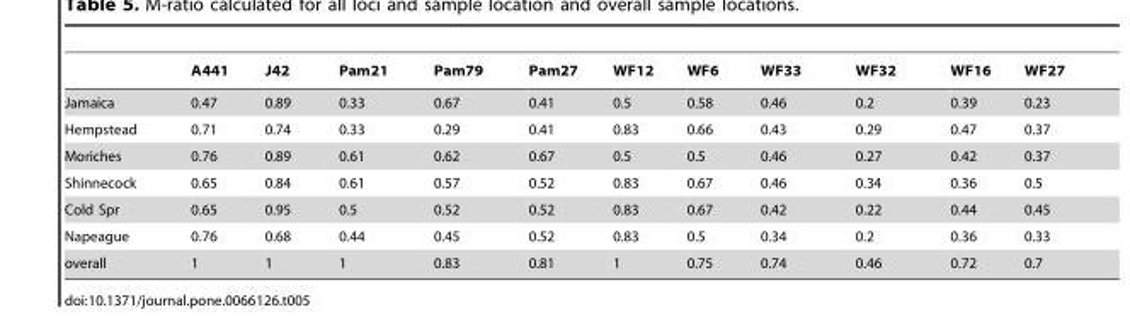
<table><thead><tr><td></td><td>A441</td><td>J42</td><td>Pam21</td><td>Pam79</td><td>Pam27</td><td>WF12</td><td>WF6</td><td>WF33</td><td>WF32</td><td>WF16</td><td>WF27</td></tr></thead><tbody><tr><td>Jamaica</td><td>0.47</td><td>0.89</td><td>0.33</td><td>0.67</td><td>0.41</td><td>0.5</td><td>0.58</td><td>0.46</td><td>0.2</td><td>0.39</td><td>0.23</td></tr><tr><td>Hempstead</td><td>0.71</td><td>0.74</td><td>0.33</td><td>0.29</td><td>0.41</td><td>0.83</td><td>0.66</td><td>0.43</td><td>0.29</td><td>0.47</td><td>0.37</td></tr><tr><td>Moriches</td><td>0.76</td><td>0.89</td><td>0.61</td><td>0.62</td><td>0.67</td><td>0.5</td><td>0.5</td><td>0.46</td><td>0.27</td><td>0.42</td><td>0.37</td></tr><tr><td>Shinnecock</td><td>0.65</td><td>0.84</td><td>0.61</td><td>0.57</td><td>0.52</td><td>0.83</td><td>0.67</td><td>0.46</td><td>0.34</td><td>0.36</td><td>0.5</td></tr><tr><td>Cold Spr</td><td>0.65</td><td>0.95</td><td>0.5</td><td>0.52</td><td>0.52</td><td>0.83</td><td>0.67</td><td>0.42</td><td>0.22</td><td>0.44</td><td>0.45</td></tr><tr><td>Napeague</td><td>0.76</td><td>0.68</td><td>0.44</td><td>0.45</td><td>0.52</td><td>0.83</td><td>0.5</td><td>0.34</td><td>0.2</td><td>0.36</td><td>0.33</td></tr><tr><td>overall</td><td>1</td><td>1</td><td>1</td><td>0.83</td><td>0.81</td><td>1</td><td>0.75</td><td>0.74</td><td>0.46</td><td>0.72</td><td>0.7</td></tr></tbody></table>